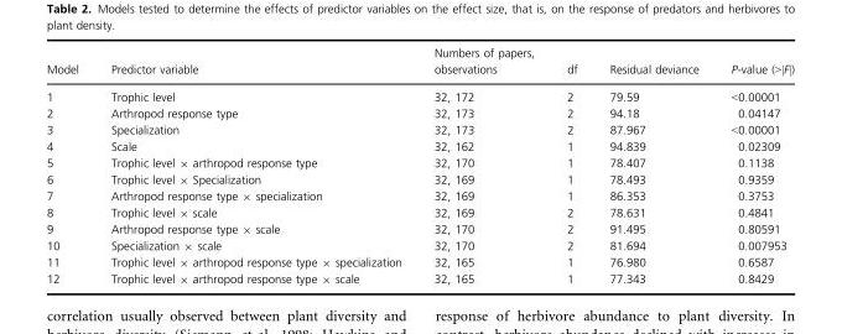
<table><thead><tr><td>Model</td><td>Predictor variable</td><td>Numbers of papers, observations</td><td>df</td><td>Residual deviance</td><td>P-value (&gt;|F|)</td></tr></thead><tbody><tr><td>1</td><td>Trophic level</td><td>32, 172</td><td>2</td><td>79.59</td><td>&lt;0.00001</td></tr><tr><td>2</td><td>Arthropod response type</td><td>32, 173</td><td>2</td><td>94.18</td><td>0.04147</td></tr><tr><td>3</td><td>Specialization</td><td>32, 173</td><td>2</td><td>87.967</td><td>&lt;0.00001</td></tr><tr><td>4</td><td>Scale</td><td>32, 162</td><td>1</td><td>94.839</td><td>0.02309</td></tr><tr><td>5</td><td>Trophic level × arthropod response type</td><td>32, 170</td><td>1</td><td>78.407</td><td>0.1138</td></tr><tr><td>6</td><td>Trophic level × Specialization</td><td>32, 169</td><td>1</td><td>78.493</td><td>0.9359</td></tr><tr><td>7</td><td>Arthropod response type × specialization</td><td>32, 169</td><td>1</td><td>86.353</td><td>0.3753</td></tr><tr><td>8</td><td>Trophic level × scale</td><td>32, 169</td><td>2</td><td>78.631</td><td>0.4841</td></tr><tr><td>9</td><td>Arthropod response type × scale</td><td>32, 170</td><td>2</td><td>91.495</td><td>0.80591</td></tr><tr><td>10</td><td>Specialization × scale</td><td>32, 170</td><td>2</td><td>81.694</td><td>0.007953</td></tr><tr><td>11</td><td>Trophic level × arthropod response type × specialization</td><td>32, 165</td><td>1</td><td>76.980</td><td>0.6587</td></tr><tr><td>12</td><td>Trophic level × arthropod response type × scale</td><td>32, 165</td><td>1</td><td>77.343</td><td>0.8429</td></tr></tbody></table>